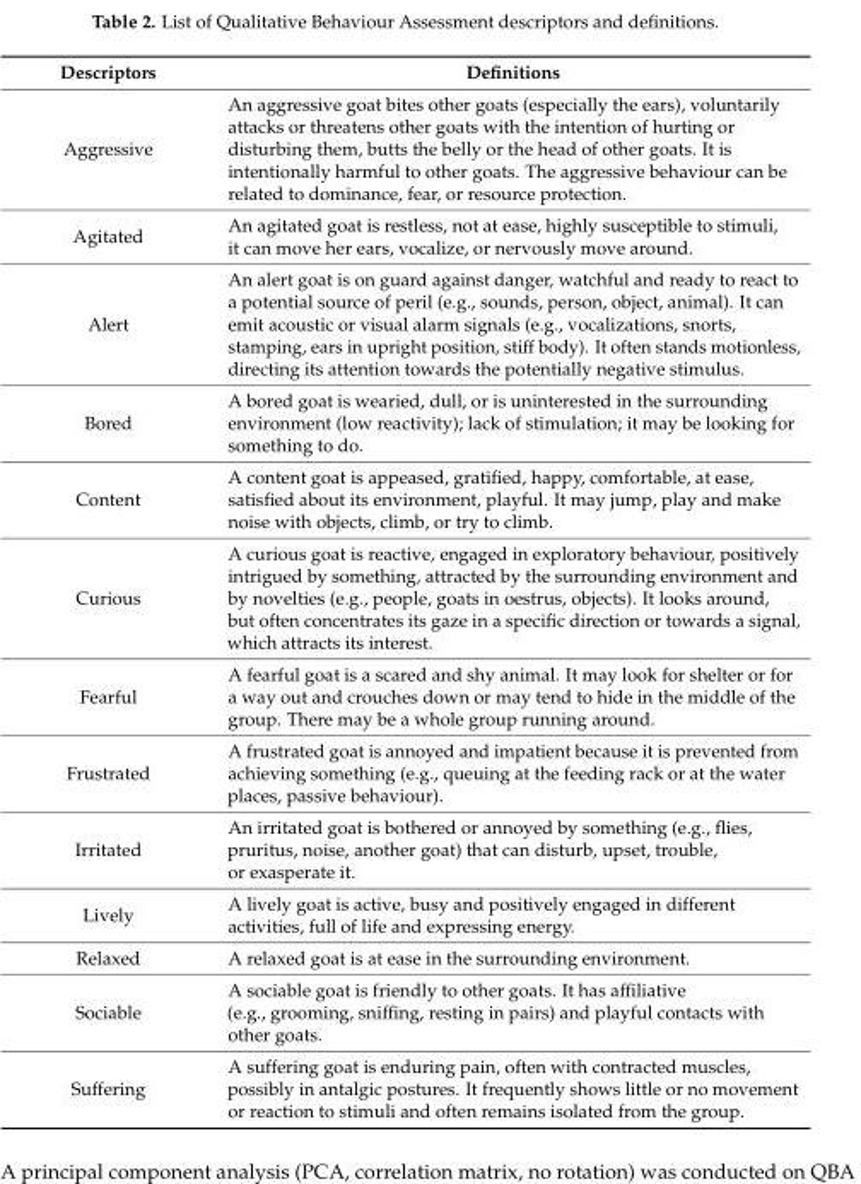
<table><thead><tr><td>Descriptors</td><td>Definitions</td></tr></thead><tbody><tr><td>Aggressive</td><td>An aggressive goat bites other goats (especially the ears), voluntarily attacks or threatens other goats with the intention of hurting or disturbing them, butts the belly or the head of other goats. It is intentionally harmful to other goats. The aggressive behaviour can be related to dominance, fear, or resource protection.</td></tr><tr><td>Agitated</td><td>An agitated goat is restless, not at ease, highly susceptible to stimuli, it can move her ears, vocalize, or nervously move around.</td></tr><tr><td>Alert</td><td>An alert goat is on guard against danger, watchful and ready to react to a potential source of peril (e.g., sounds, person, object, animal). It can emit acoustic or visual alarm signals (e.g., vocalizations, snorts, stamping, ears in upright position, stiff body). It often stands motionless, directing its attention towards the potentially negative stimulus.</td></tr><tr><td>Bored</td><td>A bored goat is wearied, dull, or is uninterested in the surrounding environment (low reactivity); lack of stimulation; it may be looking for something to do.</td></tr><tr><td>Content</td><td>A content goat is appeased, gratified, happy, comfortable, at ease, satisfied about its environment, playful. It may jump, play and make noise with objects, climb, or try to climb.</td></tr><tr><td>Curious</td><td>A curious goat is reactive, engaged in exploratory behaviour, positively intrigued by something, attracted by the surrounding environment and by novelties (e.g., people, goats in oestrus, objects). It looks around, but often concentrates its gaze in a specific direction or towards a signal, which attracts its interest.</td></tr><tr><td>Fearful</td><td>A fearful goat is a scared and shy animal. It may look for shelter or for a way out and crouches down or may tend to hide in the middle of the group. There may be a whole group running around.</td></tr><tr><td>Frustrated</td><td>A frustrated goat is annoyed and impatient because it is prevented from achieving something (e.g., queuing at the feeding rack or at the water places, passive behaviour).</td></tr><tr><td>Irritated</td><td>An irritated goat is bothered or annoyed by something (e.g., flies, pruritus, noise, another goat) that can disturb, upset, trouble, or exasperate it.</td></tr><tr><td>Lively</td><td>A lively goat is active, busy and positively engaged in different activities, full of life and expressing energy.</td></tr><tr><td>Relaxed</td><td>A relaxed goat is at ease in the surrounding environment.</td></tr><tr><td>Sociable</td><td>A sociable goat is friendly to other goats. It has affiliative (e.g., grooming, sniffing, resting in pairs) and playful contacts with other goats.</td></tr><tr><td>Suffering</td><td>A suffering goat is enduring pain, often with contracted muscles, possibly in antalgic postures. It frequently shows little or no movement or reaction to stimuli and often remains isolated from the group.</td></tr></tbody></table>